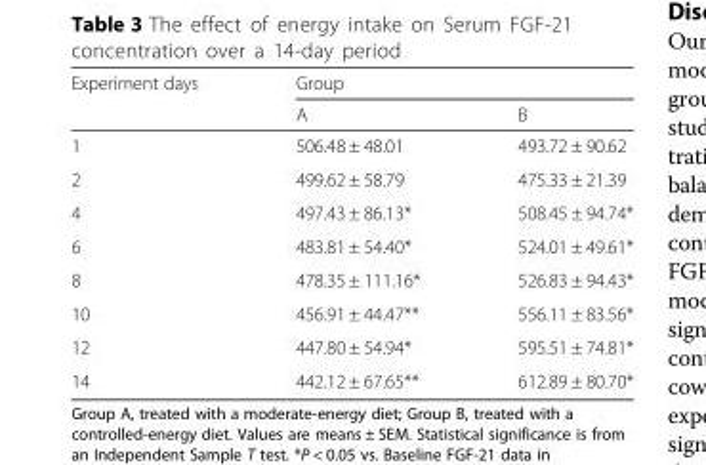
<table><thead><tr><td rowspan="2">Experiment days</td><td colspan="2">Group</td></tr><tr><td>A</td><td>B</td></tr></thead><tbody><tr><td>1</td><td>506.48 ± 48.01</td><td>493.72 ± 90.62</td></tr><tr><td>2</td><td>499.62 ± 58.79</td><td>475.33 ± 21.39</td></tr><tr><td>4</td><td>497.43 ± 86.13*</td><td>508.45 ± 94.74*</td></tr><tr><td>6</td><td>483.81 ± 54.40*</td><td>524.01 ± 49.61*</td></tr><tr><td>8</td><td>478.35 ± 111.16*</td><td>526.83 ± 94.43*</td></tr><tr><td>10</td><td>456.91 ± 44.47**</td><td>556.11 ± 83.56*</td></tr><tr><td>12</td><td>447.80 ± 54.94*</td><td>595.51 ± 74.81*</td></tr><tr><td>14</td><td>442.12 ± 67.65**</td><td>612.89 ± 80.70*</td></tr></tbody></table>